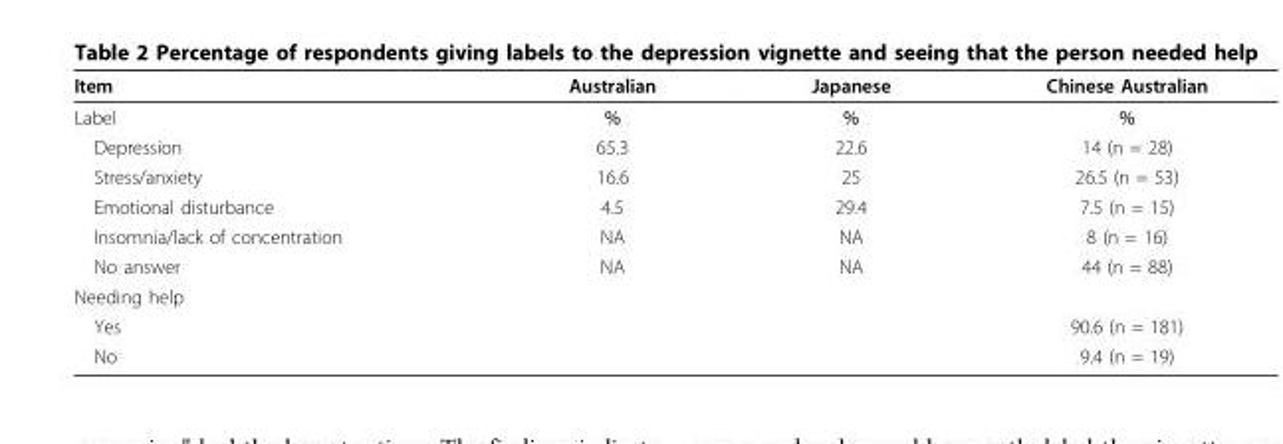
<table><thead><tr><td>Item</td><td>Australian</td><td>Japanese</td><td>Chinese Australian</td></tr></thead><tbody><tr><td>Label</td><td>%</td><td>%</td><td>%</td></tr><tr><td>Depression</td><td>65.3</td><td>22.6</td><td>14 (n = 28)</td></tr><tr><td>Stress/anxiety</td><td>16.6</td><td>25</td><td>26.5 (n = 53)</td></tr><tr><td>Emotional disturbance</td><td>4.5</td><td>29.4</td><td>7.5 (n = 15)</td></tr><tr><td>Insomnia/lack of concentration</td><td>NA</td><td>NA</td><td>8 (n = 16)</td></tr><tr><td>No answer</td><td>NA</td><td>NA</td><td>44 (n = 88)</td></tr><tr><td colspan="4">Needing help</td></tr><tr><td>Yes</td><td></td><td></td><td>90.6 (n = 181)</td></tr><tr><td>No</td><td></td><td></td><td>9.4 (n = 19)</td></tr></tbody></table>